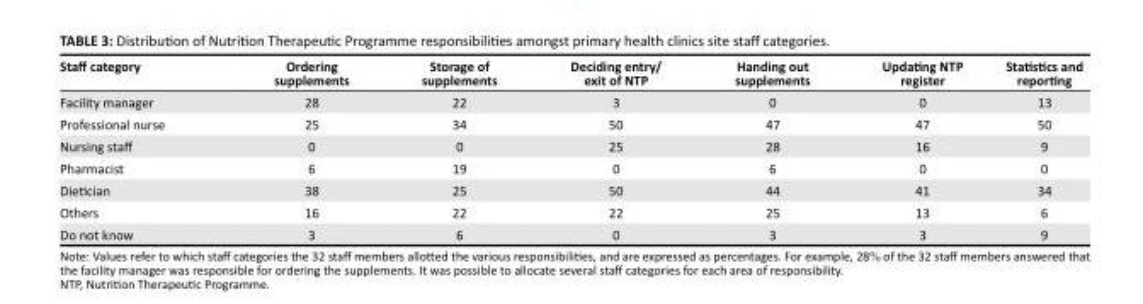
<table><thead><tr><td>Staff category</td><td>Ordering supplements</td><td>Storage of supplements</td><td>Deciding entry/ exit of NTP</td><td>Handing out supplements</td><td>Updating NTP register</td><td>Statistics and reporting</td></tr></thead><tbody><tr><td>Facility manager</td><td>28</td><td>22</td><td>3</td><td>0</td><td>0</td><td>13</td></tr><tr><td>Professional nurse</td><td>25</td><td>34</td><td>50</td><td>47</td><td>47</td><td>50</td></tr><tr><td>Nursing staff</td><td>0</td><td>0</td><td>25</td><td>28</td><td>16</td><td>9</td></tr><tr><td>Pharmacist</td><td>6</td><td>19</td><td>0</td><td>6</td><td>0</td><td>0</td></tr><tr><td>Dietician</td><td>38</td><td>25</td><td>50</td><td>44</td><td>41</td><td>34</td></tr><tr><td>Others</td><td>16</td><td>22</td><td>22</td><td>25</td><td>13</td><td>6</td></tr><tr><td>Do not know</td><td>3</td><td>6</td><td>0</td><td>3</td><td>3</td><td>9</td></tr></tbody></table>